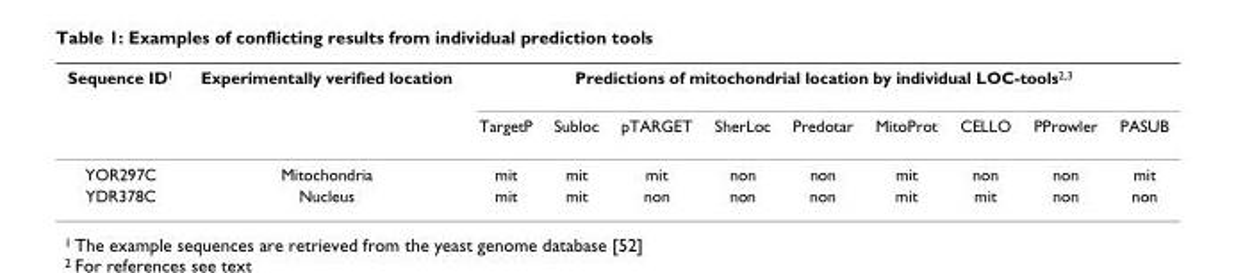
<table><thead><tr><td rowspan="2">Sequence ID<sup>1</sup></td><td rowspan="2">Experimentally verified location</td><td colspan="9">Predictions of mitochondrial location by individual LOC-tools<sup>2,3</sup></td></tr><tr><td>TargetP</td><td>Subloc</td><td>pTARGET</td><td>SherLoc</td><td>Predotar</td><td>MitoProt</td><td>CELLO</td><td>PProwler</td><td>PASUB</td></tr></thead><tbody><tr><td>YOR297C</td><td>Mitochondria</td><td>mit</td><td>mit</td><td>mit</td><td>non</td><td>non</td><td>mit</td><td>non</td><td>non</td><td>mit</td></tr><tr><td>YDR378C</td><td>Nucleus</td><td>mit</td><td>mit</td><td>non</td><td>non</td><td>non</td><td>mit</td><td>mit</td><td>non</td><td>non</td></tr></tbody></table>